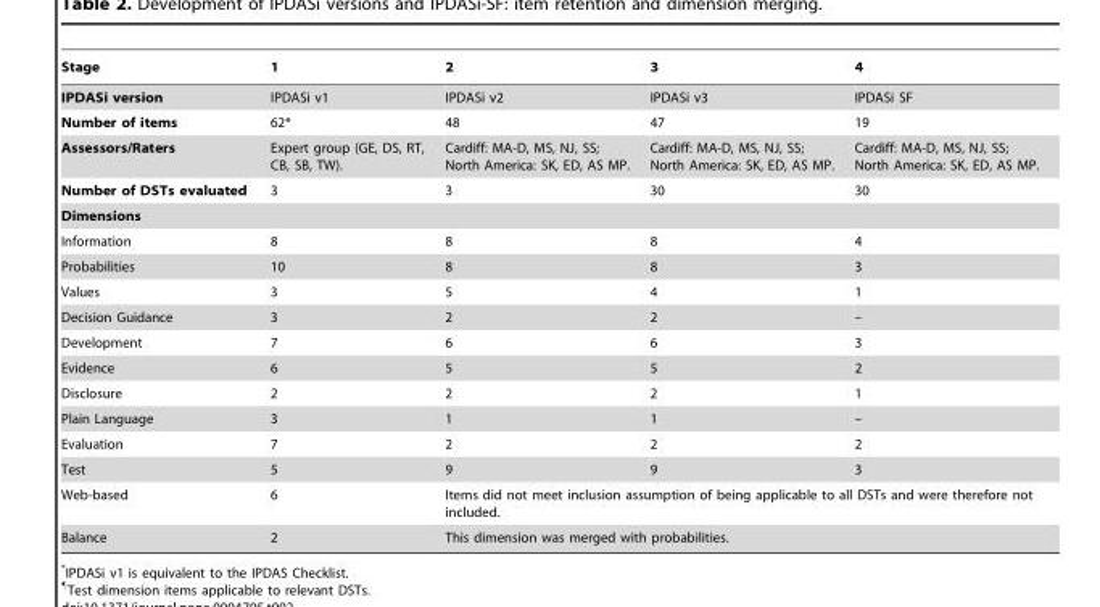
<table><thead><tr><td>Stage</td><td>1</td><td>2</td><td>3</td><td>4</td></tr></thead><tbody><tr><td>IPDASi version</td><td>IPDASi v1</td><td>IPDASi v2</td><td>IPDASi v3</td><td>IPDASi SF</td></tr><tr><td>Number of items</td><td>62*</td><td>48</td><td>47</td><td>19</td></tr><tr><td>Assessors/Raters</td><td>Expert group (GE, DS, RT, CB, SB, TW).</td><td>Cardiff: MA-D, MS, NJ, SS; North America: SK, ED, AS MP.</td><td>Cardiff: MA-D, MS, NJ, SS; North America: SK, ED, AS MP.</td><td>Cardiff: MA-D, MS, NJ, SS; North America: SK, ED, AS MP.</td></tr><tr><td>Number of DSTs evaluated</td><td>3</td><td>3</td><td>30</td><td>30</td></tr><tr><td colspan="5">Dimensions</td></tr><tr><td>Information</td><td>8</td><td>8</td><td>8</td><td>4</td></tr><tr><td>Probabilities</td><td>10</td><td>8</td><td>8</td><td>3</td></tr><tr><td>Values</td><td>3</td><td>5</td><td>4</td><td>1</td></tr><tr><td>Decision Guidance</td><td>3</td><td>2</td><td>2</td><td>–</td></tr><tr><td>Development</td><td>7</td><td>6</td><td>6</td><td>3</td></tr><tr><td>Evidence</td><td>6</td><td>5</td><td>5</td><td>2</td></tr><tr><td>Disclosure</td><td>2</td><td>2</td><td>2</td><td>1</td></tr><tr><td>Plain Language</td><td>3</td><td>1</td><td>1</td><td>–</td></tr><tr><td>Evaluation</td><td>7</td><td>2</td><td>2</td><td>2</td></tr><tr><td>Test</td><td>5</td><td>9</td><td>9</td><td>3</td></tr><tr><td>Web-based</td><td>6</td><td colspan="3">Items did not meet inclusion assumption of being applicable to all DSTs and were therefore not included.</td></tr><tr><td>Balance</td><td>2</td><td colspan="3">This dimension was merged with probabilities.</td></tr></tbody></table>